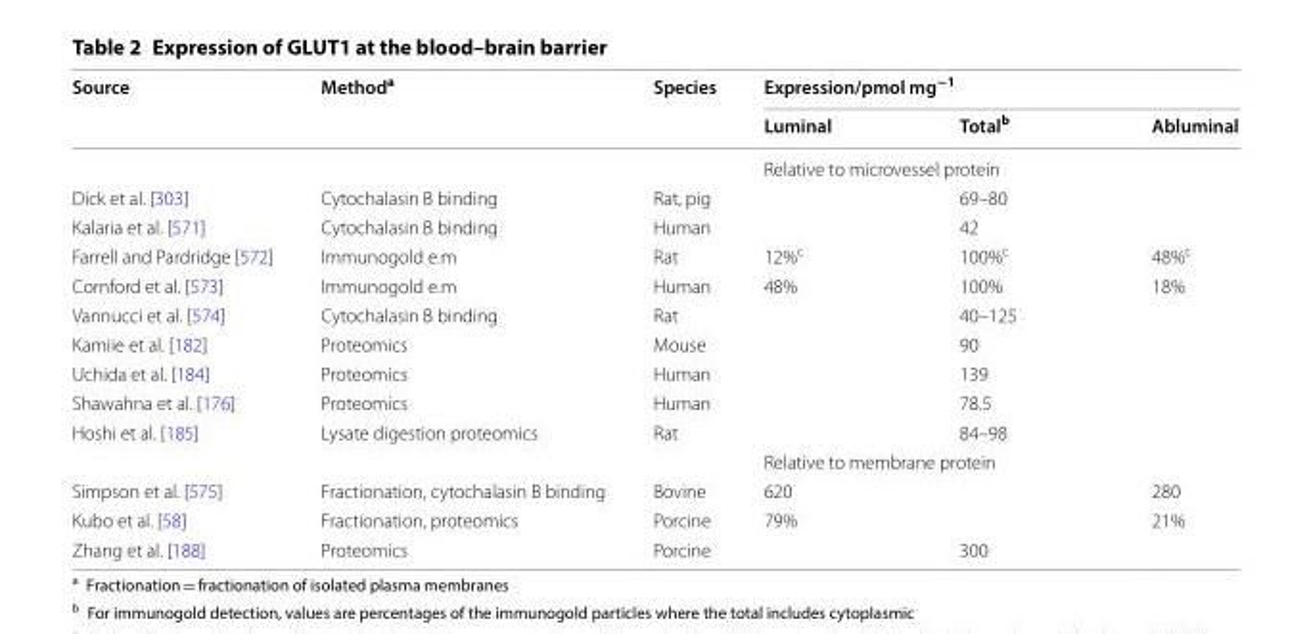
<table><thead><tr><td rowspan="2">Source</td><td rowspan="2">Method<sup>a</sup></td><td rowspan="2">Species</td><td colspan="3">Expression/pmol mg<sup>−1</sup></td></tr><tr><td>Luminal</td><td>Total<sup>b</sup></td><td>Abluminal</td></tr></thead><tbody><tr><td colspan="3"></td><td colspan="3">Relative to microvessel protein</td></tr><tr><td>Dick et al. [303]</td><td>Cytochalasin B binding</td><td>Rat, pig</td><td></td><td>69–80</td><td></td></tr><tr><td>Kalaria et al. [571]</td><td>Cytochalasin B binding</td><td>Human</td><td></td><td>42</td><td></td></tr><tr><td>Farrell and Pardridge [572]</td><td>Immunogold e.m</td><td>Rat</td><td>12%<sup>c</sup></td><td>100%<sup>c</sup></td><td>48%<sup>c</sup></td></tr><tr><td>Cornford et al. [573]</td><td>Immunogold e.m</td><td>Human</td><td>48%</td><td>100%</td><td>18%</td></tr><tr><td>Vannucci et al. [574]</td><td>Cytochalasin B binding</td><td>Rat</td><td></td><td>40–125</td><td></td></tr><tr><td>Kamiie et al. [182]</td><td>Proteomics</td><td>Mouse</td><td></td><td>90</td><td></td></tr><tr><td>Uchida et al. [184]</td><td>Proteomics</td><td>Human</td><td></td><td>139</td><td></td></tr><tr><td>Shawahna et al. [176]</td><td>Proteomics</td><td>Human</td><td></td><td>78.5</td><td></td></tr><tr><td>Hoshi et al. [185]</td><td>Lysate digestion proteomics</td><td>Rat</td><td></td><td>84–98</td><td></td></tr><tr><td colspan="3"></td><td colspan="3">Relative to membrane protein</td></tr><tr><td>Simpson et al. [575]</td><td>Fractionation, cytochalasin B binding</td><td>Bovine</td><td>620</td><td></td><td>280</td></tr><tr><td>Kubo et al. [58]</td><td>Fractionation, proteomics</td><td>Porcine</td><td>79%</td><td></td><td>21%</td></tr><tr><td>Zhang et al. [188]</td><td>Proteomics</td><td>Porcine</td><td></td><td>300</td><td></td></tr></tbody></table>